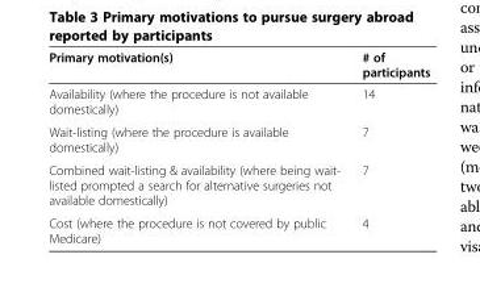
<table><thead><tr><td>Primary motivation(s)</td><td># of participants</td></tr></thead><tbody><tr><td>Availability (where the procedure is not available domestically)</td><td>14</td></tr><tr><td>Wait-listing (where the procedure is available domestically)</td><td>7</td></tr><tr><td>Combined wait-listing &amp; availability (where being wait- listed prompted a search for alternative surgeries not available domestically)</td><td>7</td></tr><tr><td>Cost (where the procedure is not covered by public Medicare)</td><td>4</td></tr></tbody></table>